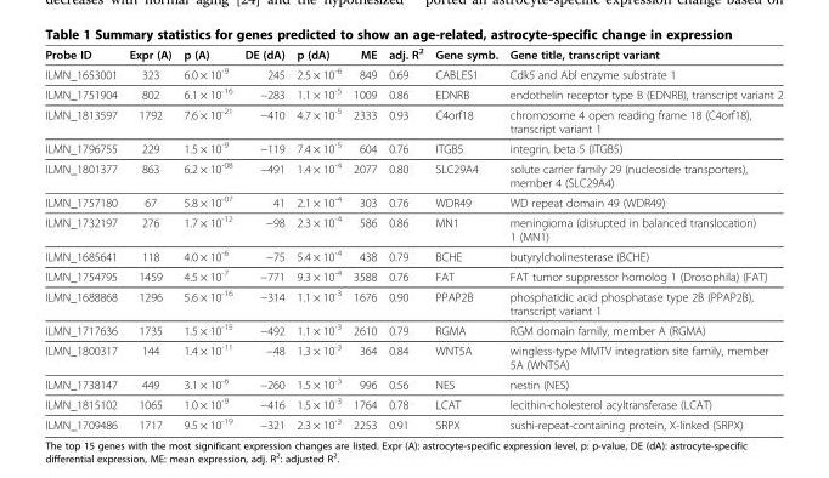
<table><thead><tr><td>Probe ID</td><td>Expr (A)</td><td>p (A)</td><td>DE (dA)</td><td>p (dA)</td><td>ME</td><td>adj. R<sup>2</sup></td><td>Gene symb.</td><td>Gene title, transcript variant</td></tr></thead><tbody><tr><td>ILMN_1653001</td><td>323</td><td>6.0 × 10<sup>-9</sup></td><td>245</td><td>2.5 × 10<sup>-6</sup></td><td>849</td><td>0.69</td><td>CABLES1</td><td>Cdk5 and Abl enzyme substrate 1</td></tr><tr><td>ILMN_1751904</td><td>802</td><td>6.1 × 10<sup>-16</sup></td><td>−283</td><td>1.1 × 10<sup>-5</sup></td><td>1009</td><td>0.86</td><td>EDNRB</td><td>endothelin receptor type B (EDNRB), transcript variant 2</td></tr><tr><td>ILMN_1813597</td><td>1792</td><td>7.6 × 10<sup>-21</sup></td><td>−410</td><td>4.7 × 10<sup>-5</sup></td><td>2333</td><td>0.93</td><td>C4orf18</td><td>chromosome 4 open reading frame 18 (C4orf18), transcript variant 1</td></tr><tr><td>ILMN_1796755</td><td>229</td><td>1.5 × 10<sup>-9</sup></td><td>−119</td><td>7.4 × 10<sup>-5</sup></td><td>604</td><td>0.76</td><td>ITGB5</td><td>integrin, beta 5 (ITGB5)</td></tr><tr><td>ILMN_1801377</td><td>863</td><td>6.2 × 10<sup>-08</sup></td><td>−491</td><td>1.4 × 10<sup>-4</sup></td><td>2077</td><td>0.80</td><td>SLC29A4</td><td>solute carrier family 29 (nucleoside transporters), member 4 (SLC29A4)</td></tr><tr><td>ILMN_1757180</td><td>67</td><td>5.8 × 10<sup>-07</sup></td><td>41</td><td>2.1 × 10<sup>-4</sup></td><td>303</td><td>0.76</td><td>WDR49</td><td>WD repeat domain 49 (WDR49)</td></tr><tr><td>ILMN_1732197</td><td>276</td><td>1.7 × 10<sup>-12</sup></td><td>−98</td><td>2.3 × 10<sup>-4</sup></td><td>586</td><td>0.86</td><td>MN1</td><td>meningioma (disrupted in balanced translocation) 1 (MN1)</td></tr><tr><td>ILMN_1685641</td><td>118</td><td>4.0 × 10<sup>-6</sup></td><td>−75</td><td>5.4 × 10<sup>-4</sup></td><td>438</td><td>0.79</td><td>BCHE</td><td>butyrylcholinesterase (BCHE)</td></tr><tr><td>ILMN_1754795</td><td>1459</td><td>4.5 × 10<sup>-7</sup></td><td>−771</td><td>9.3 × 10<sup>-4</sup></td><td>3588</td><td>0.76</td><td>FAT</td><td>FAT tumor suppressor homolog 1 (Drosophila) (FAT)</td></tr><tr><td>ILMN_1688868</td><td>1296</td><td>5.6 × 10<sup>-16</sup></td><td>−314</td><td>1.1 × 10<sup>-3</sup></td><td>1676</td><td>0.90</td><td>PPAP2B</td><td>phosphatidic acid phosphatase type 2B (PPAP2B), transcript variant 1</td></tr><tr><td>ILMN_1717636</td><td>1735</td><td>1.5 × 10<sup>-15</sup></td><td>−492</td><td>1.1 × 10<sup>-3</sup></td><td>2610</td><td>0.79</td><td>RGMA</td><td>RGM domain family, member A (RGMA)</td></tr><tr><td>ILMN_1800317</td><td>144</td><td>1.4 × 10<sup>-11</sup></td><td>−48</td><td>1.3 × 10<sup>-3</sup></td><td>364</td><td>0.84</td><td>WNT5A</td><td>wingless-type MMTV integration site family, member 5A (WNT5A)</td></tr><tr><td>ILMN_1738147</td><td>449</td><td>3.1 × 10<sup>-6</sup></td><td>−260</td><td>1.5 × 10<sup>-3</sup></td><td>996</td><td>0.56</td><td>NES</td><td>nestin (NES)</td></tr><tr><td>ILMN_1815102</td><td>1065</td><td>1.0 × 10<sup>-9</sup></td><td>−416</td><td>1.5 × 10<sup>-3</sup></td><td>1764</td><td>0.78</td><td>LCAT</td><td>lecithin-cholesterol acyltransferase (LCAT)</td></tr><tr><td>ILMN_1709486</td><td>1717</td><td>9.5 × 10<sup>-19</sup></td><td>−321</td><td>2.3 × 10<sup>-3</sup></td><td>2253</td><td>0.91</td><td>SRPX</td><td>sushi-repeat-containing protein, X-linked (SRPX)</td></tr></tbody></table>